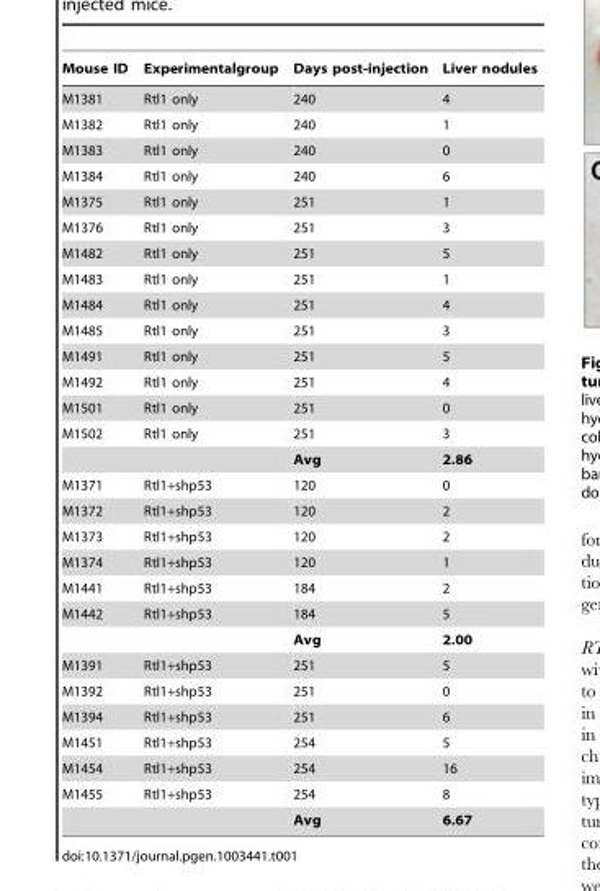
<table><thead><tr><td>Mouse ID</td><td>Experimentalgroup</td><td>Days post-injection</td><td>Liver nodules</td></tr></thead><tbody><tr><td>M1381</td><td>Rtl1 only</td><td>240</td><td>4</td></tr><tr><td>M1382</td><td>Rtl1 only</td><td>240</td><td>1</td></tr><tr><td>M1383</td><td>Rtl1 only</td><td>240</td><td>0</td></tr><tr><td>M1384</td><td>Rtl1 only</td><td>240</td><td>6</td></tr><tr><td>M1375</td><td>Rtl1 only</td><td>251</td><td>1</td></tr><tr><td>M1376</td><td>Rtl1 only</td><td>251</td><td>3</td></tr><tr><td>M1482</td><td>Rtl1 only</td><td>251</td><td>5</td></tr><tr><td>M1483</td><td>Rtl1 only</td><td>251</td><td>1</td></tr><tr><td>M1484</td><td>Rtl1 only</td><td>251</td><td>4</td></tr><tr><td>M1485</td><td>Rtl1 only</td><td>251</td><td>3</td></tr><tr><td>M1491</td><td>Rtl1 only</td><td>251</td><td>5</td></tr><tr><td>M1492</td><td>Rtl1 only</td><td>251</td><td>4</td></tr><tr><td>M1501</td><td>Rtl1 only</td><td>251</td><td>0</td></tr><tr><td rowspan="2">M1502</td><td>Rtl1 only</td><td>251</td><td>3</td></tr><tr><td></td><td>Avg</td><td>2.86</td></tr><tr><td>M1371</td><td>Rtl1+shp53</td><td>120</td><td>0</td></tr><tr><td>M1372</td><td>Rtl1+shp53</td><td>120</td><td>2</td></tr><tr><td>M1373</td><td>Rtl1+shp53</td><td>120</td><td>2</td></tr><tr><td>M1374</td><td>Rtl1+shp53</td><td>120</td><td>1</td></tr><tr><td>M1441</td><td>Rtl1+shp53</td><td>184</td><td>2</td></tr><tr><td rowspan="2">M1442</td><td>Rtl1+shp53</td><td>184</td><td>5</td></tr><tr><td></td><td>Avg</td><td>2.00</td></tr><tr><td>M1391</td><td>Rtl1+shp53</td><td>251</td><td>5</td></tr><tr><td>M1392</td><td>Rtl1+shp53</td><td>251</td><td>0</td></tr><tr><td>M1394</td><td>Rtl1+shp53</td><td>251</td><td>6</td></tr><tr><td>M1451</td><td>Rtl1+shp53</td><td>254</td><td>5</td></tr><tr><td>M1454</td><td>Rtl1+shp53</td><td>254</td><td>16</td></tr><tr><td rowspan="2">M1455</td><td>Rtl1+shp53</td><td>254</td><td>8</td></tr><tr><td></td><td>Avg</td><td>6.67</td></tr></tbody></table>